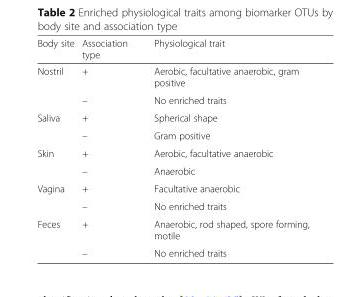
<table><thead><tr><td>Body site</td><td>Association type</td><td>Physiological trait</td></tr></thead><tbody><tr><td rowspan="2">Nostril</td><td>+</td><td>Aerobic, facultative anaerobic, gram positive</td></tr><tr><td>–</td><td>No enriched traits</td></tr><tr><td rowspan="2">Saliva</td><td>+</td><td>Spherical shape</td></tr><tr><td>–</td><td>Gram positive</td></tr><tr><td rowspan="2">Skin</td><td>+</td><td>Aerobic, facultative anaerobic</td></tr><tr><td>–</td><td>Anaerobic</td></tr><tr><td rowspan="2">Vagina</td><td>+</td><td>Facultative anaerobic</td></tr><tr><td>–</td><td>No enriched traits</td></tr><tr><td rowspan="2">Feces</td><td>+</td><td>Anaerobic, rod shaped, spore forming, motile</td></tr><tr><td>–</td><td>No enriched traits</td></tr></tbody></table>